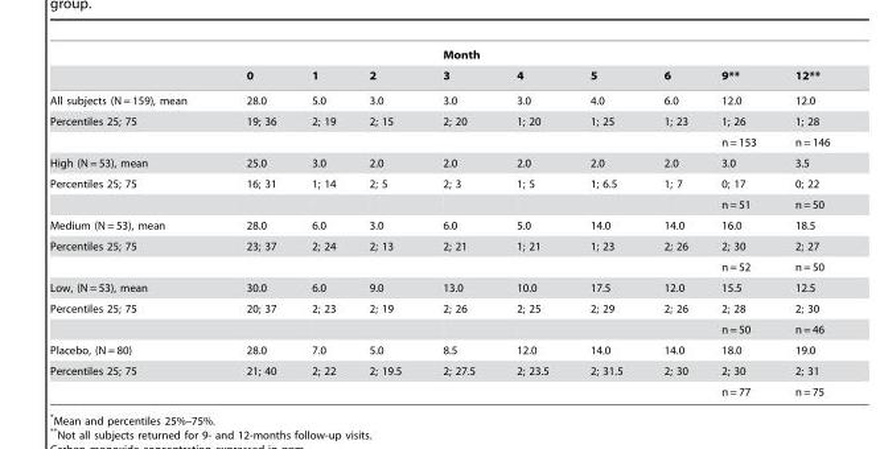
<table><thead><tr><td rowspan="2"></td><td rowspan="2">0</td><td rowspan="2">1</td><td rowspan="2">2</td><td rowspan="2">Month 3</td><td rowspan="2">4</td><td rowspan="2">5</td><td rowspan="2">6</td><td rowspan="2">9**</td><td rowspan="2">12**</td></tr><tr></tr></thead><tbody><tr><td>All subjects (N = 159), mean</td><td>28.0</td><td>5.0</td><td>3.0</td><td>3.0</td><td>3.0</td><td>4.0</td><td>6.0</td><td>12.0</td><td>12.0</td></tr><tr><td rowspan="2">Percentiles 25; 75</td><td>19; 36</td><td>2; 19</td><td>2; 15</td><td>2; 20</td><td>1; 20</td><td>1; 25</td><td>1; 23</td><td>1; 26</td><td>1; 28</td></tr><tr><td></td><td></td><td></td><td></td><td></td><td></td><td></td><td>n = 153</td><td>n = 146</td></tr><tr><td>High (N = 53), mean</td><td>25.0</td><td>3.0</td><td>2.0</td><td>2.0</td><td>2.0</td><td>2.0</td><td>2.0</td><td>3.0</td><td>3.5</td></tr><tr><td rowspan="2">Percentiles 25; 75</td><td>16; 31</td><td>1; 14</td><td>2; 5</td><td>2; 3</td><td>1; 5</td><td>1; 6.5</td><td>1; 7</td><td>0; 17</td><td>0; 22</td></tr><tr><td></td><td></td><td></td><td></td><td></td><td></td><td></td><td>n = 51</td><td>n = 50</td></tr><tr><td>Medium (N = 53), mean</td><td>28.0</td><td>6.0</td><td>3.0</td><td>6.0</td><td>5.0</td><td>14.0</td><td>14.0</td><td>16.0</td><td>18.5</td></tr><tr><td rowspan="2">Percentiles 25; 75</td><td>23; 37</td><td>2; 24</td><td>2; 13</td><td>2; 21</td><td>1; 21</td><td>1; 23</td><td>2; 26</td><td>2; 30</td><td>2; 27</td></tr><tr><td></td><td></td><td></td><td></td><td></td><td></td><td></td><td>n = 52</td><td>n = 50</td></tr><tr><td>Low, (N = 53), mean</td><td>30.0</td><td>6.0</td><td>9.0</td><td>13.0</td><td>10.0</td><td>17.5</td><td>12.0</td><td>15.5</td><td>12.5</td></tr><tr><td rowspan="2">Percentiles 25; 75</td><td>20; 37</td><td>2; 23</td><td>2; 19</td><td>2; 26</td><td>2; 25</td><td>2; 29</td><td>2; 26</td><td>2; 28</td><td>2; 30</td></tr><tr><td></td><td></td><td></td><td></td><td></td><td></td><td></td><td>n = 50</td><td>n = 46</td></tr><tr><td>Placebo, (N = 80)</td><td>28.0</td><td>7.0</td><td>5.0</td><td>8.5</td><td>12.0</td><td>14.0</td><td>14.0</td><td>18.0</td><td>19.0</td></tr><tr><td rowspan="2">Percentiles 25; 75</td><td>21; 40</td><td>2; 22</td><td>2; 19.5</td><td>2; 27.5</td><td>2; 23.5</td><td>2; 31.5</td><td>2; 30</td><td>2; 30</td><td>2; 31</td></tr><tr><td></td><td></td><td></td><td></td><td></td><td></td><td></td><td>n = 77</td><td>n = 75</td></tr></tbody></table>